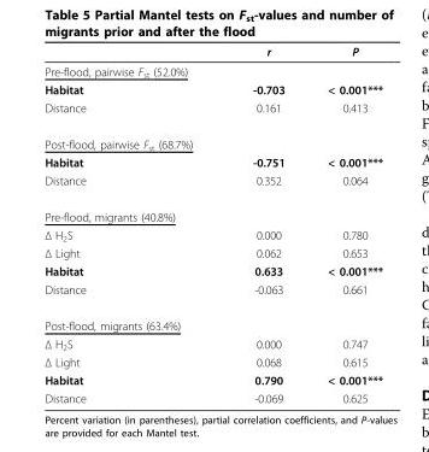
<table><thead><tr><td></td><td>r</td><td>P</td></tr></thead><tbody><tr><td colspan="3">Pre-flood, pairwise F<sub>st</sub> (52.0%)</td></tr><tr><td>Habitat</td><td>-0.703</td><td>&lt; 0.001***</td></tr><tr><td>Distance</td><td>0.161</td><td>0.413</td></tr><tr><td colspan="3">Post-flood, pairwise F<sub>st</sub> (68.7%)</td></tr><tr><td>Habitat</td><td>-0.751</td><td>&lt; 0.001***</td></tr><tr><td>Distance</td><td>0.352</td><td>0.064</td></tr><tr><td colspan="3">Pre-flood, migrants (40.8%)</td></tr><tr><td>Δ H<sub>2</sub>S</td><td>0.000</td><td>0.780</td></tr><tr><td>Δ Light</td><td>0.062</td><td>0.653</td></tr><tr><td>Habitat</td><td>0.633</td><td>&lt; 0.001***</td></tr><tr><td>Distance</td><td>-0.063</td><td>0.661</td></tr><tr><td colspan="3">Post-flood, migrants (63.4%)</td></tr><tr><td>Δ H<sub>2</sub>S</td><td>0.000</td><td>0.747</td></tr><tr><td>Δ Light</td><td>0.068</td><td>0.615</td></tr><tr><td>Habitat</td><td>0.790</td><td>&lt; 0.001***</td></tr><tr><td>Distance</td><td>-0.069</td><td>0.625</td></tr></tbody></table>